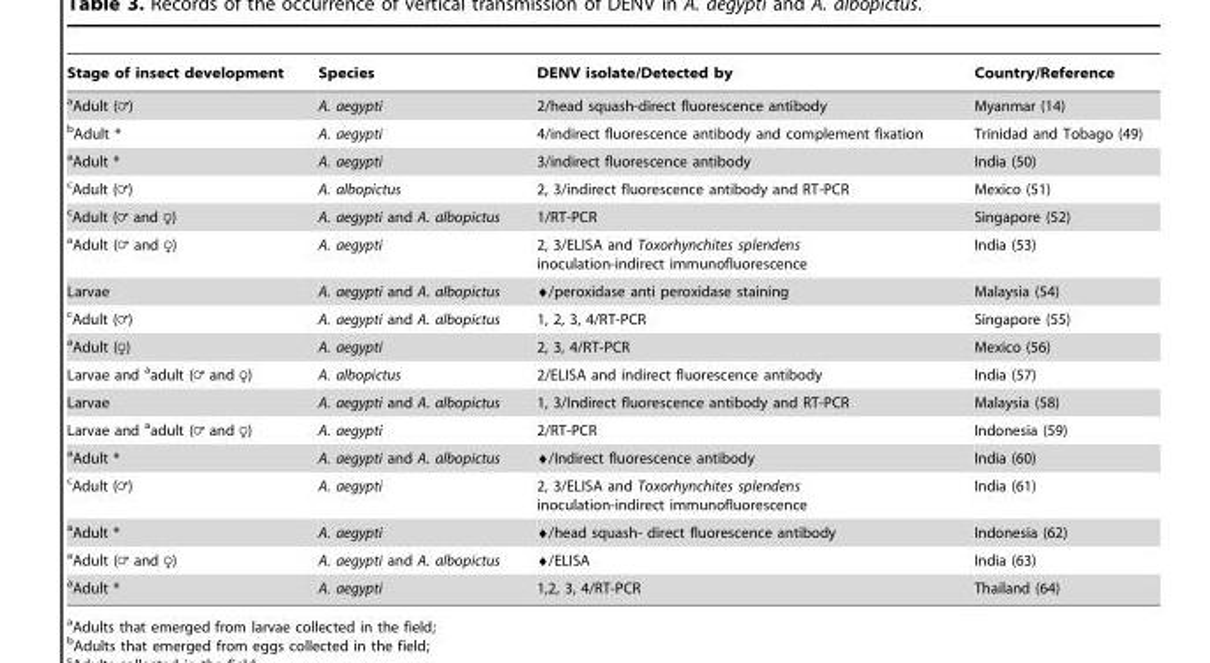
<table><thead><tr><td>Stage of insect development</td><td>Species</td><td>DENV isolate/Detected by</td><td>Country/Reference</td></tr></thead><tbody><tr><td>aAdult (=)</td><td>A. aegypti</td><td>2/head squash-direct fluorescence antibody</td><td>Myanmar (14)</td></tr><tr><td>bAdult *</td><td>A. aegypti</td><td>4/indirect fluorescence antibody and complement fixation</td><td>Trinidad and Tobago (49)</td></tr><tr><td>aAdult *</td><td>A. aegypti</td><td>3/indirect fluorescence antibody</td><td>India (50)</td></tr><tr><td>cAdult (=)</td><td>A. albopictus</td><td>2, 3/indirect fluorescence antibody and RT-PCR</td><td>Mexico (51)</td></tr><tr><td>cAdult (= and R)</td><td>A. aegypti and A. albopictus</td><td>1/RT-PCR</td><td>Singapore (52)</td></tr><tr><td>aAdult (= and R)</td><td>A. aegypti</td><td>2, 3/ELISA and Toxorhynchites splendens inoculation-indirect immunofluorescence</td><td>India (53)</td></tr><tr><td>Larvae</td><td>A. aegypti and A. albopictus</td><td>¤/peroxidase anti peroxidase staining</td><td>Malaysia (54)</td></tr><tr><td>cAdult (=)</td><td>A. aegypti and A. albopictus</td><td>1, 2, 3, 4/RT-PCR</td><td>Singapore (55)</td></tr><tr><td>aAdult (♀)</td><td>A. aegypti</td><td>2, 3, 4/RT-PCR</td><td>Mexico (56)</td></tr><tr><td>Larvae and aadult (= and R)</td><td>A. albopictus</td><td>2/ELISA and indirect fluorescence antibody</td><td>India (57)</td></tr><tr><td>Larvae</td><td>A. aegypti and A. albopictus</td><td>1, 3/Indirect fluorescence antibody and RT-PCR</td><td>Malaysia (58)</td></tr><tr><td>Larvae and aadult (= and R)</td><td>A. aegypti</td><td>2/RT-PCR</td><td>Indonesia (59)</td></tr><tr><td>aAdult *</td><td>A. aegypti and A. albopictus</td><td>¤/Indirect fluorescence antibody</td><td>India (60)</td></tr><tr><td>cAdult (=)</td><td>A. aegypti</td><td>2, 3/ELISA and Toxorhynchites splendens inoculation-indirect immunofluorescence</td><td>India (61)</td></tr><tr><td>aAdult *</td><td>A. aegypti</td><td>¤/head squash- direct fluorescence antibody</td><td>Indonesia (62)</td></tr><tr><td>aAdult (= and R)</td><td>A. aegypti and A. albopictus</td><td>¤/ELISA</td><td>India (63)</td></tr><tr><td>aAdult *</td><td>A. aegypti</td><td>1,2, 3, 4/RT-PCR</td><td>Thailand (64)</td></tr></tbody></table>